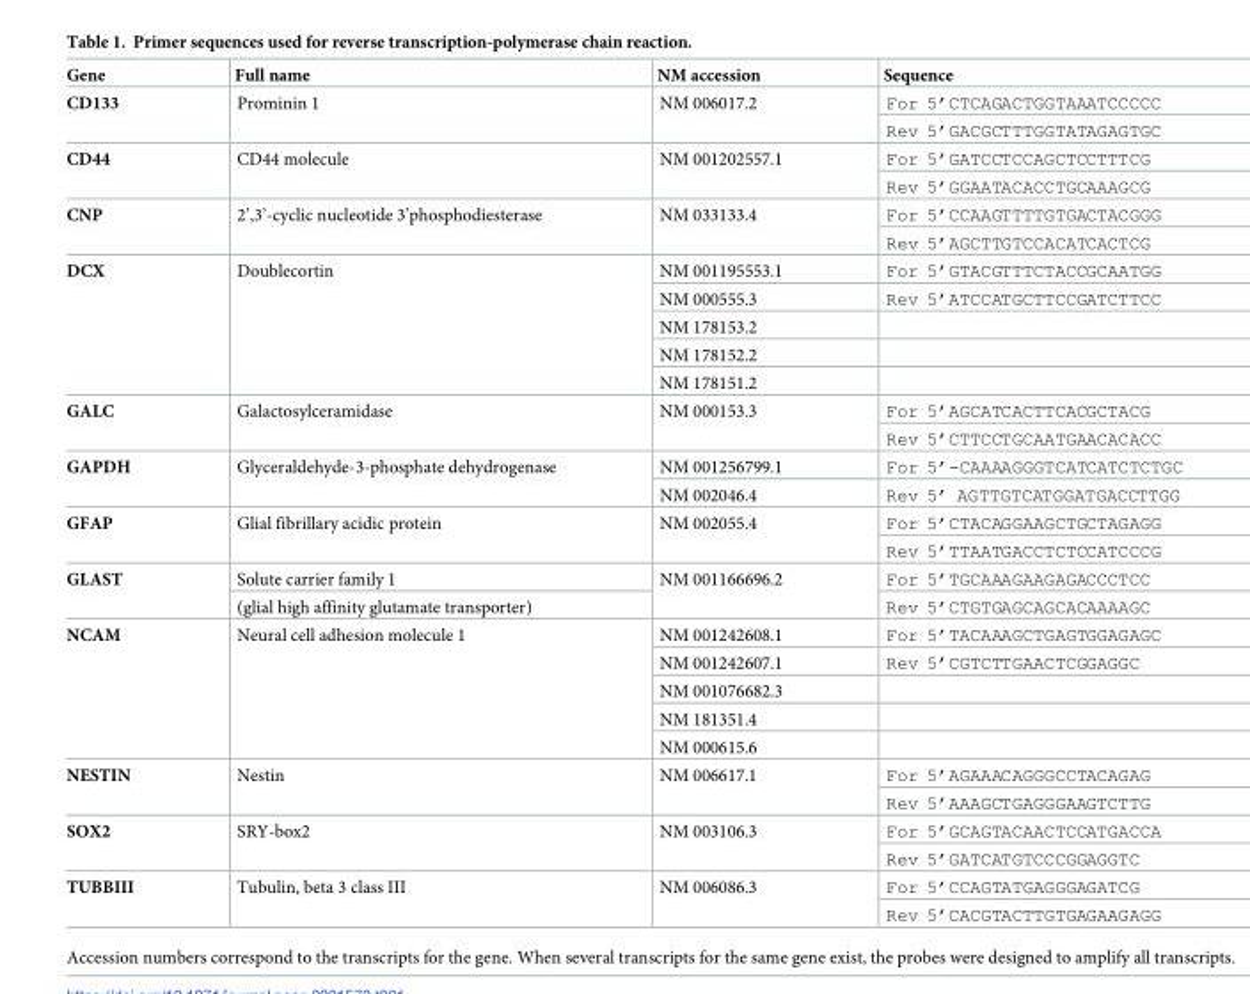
<table><thead><tr><td>Gene</td><td>Full name</td><td>NM accession</td><td>Sequence</td></tr></thead><tbody><tr><td rowspan="2">CD133</td><td rowspan="2">Prominin 1</td><td rowspan="2">NM 006017.2</td><td>For 5’CTCAGACTGGTAAATCCCCC</td></tr><tr><td>Rev 5’GACGCTTTGGTATAGAGTGC</td></tr><tr><td rowspan="2">CD44</td><td rowspan="2">CD44 molecule</td><td rowspan="2">NM 001202557.1</td><td>For 5’GATCCTCCAGCTCCTTTCG</td></tr><tr><td>Rev 5’GGAATACACCTGCAAAGCG</td></tr><tr><td rowspan="2">CNP</td><td rowspan="2">2’,3’-cyclic nucleotide 3’phosphodiesterase</td><td rowspan="2">NM 033133.4</td><td>For 5’CCAAGTTTTGTGACTACGGG</td></tr><tr><td>Rev 5’AGCTTGTCCACATCACTCG</td></tr><tr><td rowspan="5">DCX</td><td rowspan="5">Doublecortin</td><td>NM 001195553.1</td><td>For 5’GTACGTTTCTACCGCAATGG</td></tr><tr><td>NM 000555.3</td><td>Rev 5’ATCCATGCTTCCGATCTTCC</td></tr><tr><td>NM 178153.2</td><td></td></tr><tr><td>NM 178152.2</td><td></td></tr><tr><td>NM 178151.2</td><td></td></tr><tr><td rowspan="2">GALC</td><td rowspan="2">Galactosylceramidase</td><td rowspan="2">NM 000153.3</td><td>For 5’AGCATCACTTCACGCTACG</td></tr><tr><td>Rev 5’CTTCCTGCAATGAACACACC</td></tr><tr><td rowspan="2">GAPDH</td><td rowspan="2">Glyceraldehyde-3-phosphate dehydrogenase</td><td>NM 001256799.1</td><td>For 5’-CAAAAGGGTCATCATCTCTGC</td></tr><tr><td>NM 002046.4</td><td>Rev 5’ AGTTGTCATGGATGACCTTGG</td></tr><tr><td rowspan="2">GFAP</td><td rowspan="2">Glial fibrillary acidic protein</td><td rowspan="2">NM 002055.4</td><td>For 5’CTACAGGAAGCTGCTAGAGG</td></tr><tr><td>Rev 5’TTAATGACCTCTCCATCCCG</td></tr><tr><td rowspan="2">GLAST</td><td>Solute carrier family 1</td><td rowspan="2">NM 001166696.2</td><td>For 5’TGCAAAGAAGAGACCCTCC</td></tr><tr><td>(glial high affinity glutamate transporter)</td><td>Rev 5’CTGTGAGCAGCACAAAAGC</td></tr><tr><td rowspan="5">NCAM</td><td rowspan="5">Neural cell adhesion molecule 1</td><td>NM 001242608.1</td><td>For 5’TACAAAGCTGAGTGGAGAGC</td></tr><tr><td>NM 001242607.1</td><td>Rev 5’CGTCTTGAACTCGGAGGC</td></tr><tr><td>NM 001076682.3</td><td></td></tr><tr><td>NM 181351.4</td><td></td></tr><tr><td>NM 000615.6</td><td></td></tr><tr><td rowspan="2">NESTIN</td><td rowspan="2">Nestin</td><td rowspan="2">NM 006617.1</td><td>For 5’AGAAACAGGGCCTACAGAG</td></tr><tr><td>Rev 5’AAAGCTGAGGGAAGTCTTG</td></tr><tr><td rowspan="2">SOX2</td><td rowspan="2">SRY-box2</td><td rowspan="2">NM 003106.3</td><td>For 5’GCAGTACAACTCCATGACCA</td></tr><tr><td>Rev 5’GATCATGTCCCGGAGGTC</td></tr><tr><td rowspan="2">TUBBIII</td><td rowspan="2">Tubulin, beta 3 class III</td><td rowspan="2">NM 006086.3</td><td>For 5’CCAGTATGAGGGAGATCG</td></tr><tr><td>Rev 5’CACGTACTTGTGAGAAGAGG</td></tr></tbody></table>